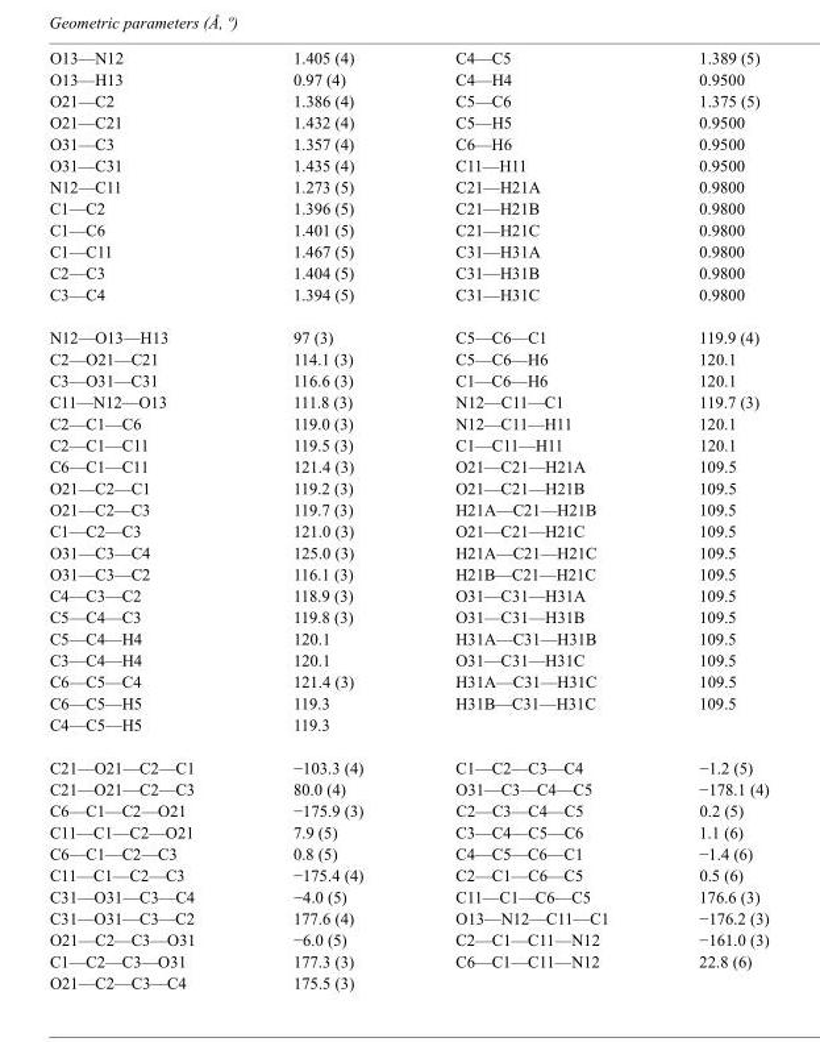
<table><tbody><tr><td>O13—N12</td><td>1.405 (4)</td><td>C4—C5</td><td>1.389 (5)</td></tr><tr><td>O13—H13</td><td>0.97 (4)</td><td>C4—H4</td><td>0.9500</td></tr><tr><td>O21—C2</td><td>1.386 (4)</td><td>C5—C6</td><td>1.375 (5)</td></tr><tr><td>O21—C21</td><td>1.432 (4)</td><td>C5—H5</td><td>0.9500</td></tr><tr><td>O31—C3</td><td>1.357 (4)</td><td>C6—H6</td><td>0.9500</td></tr><tr><td>O31—C31</td><td>1.435 (4)</td><td>C11—H11</td><td>0.9500</td></tr><tr><td>N12—C11</td><td>1.273 (5)</td><td>C21—H21A</td><td>0.9800</td></tr><tr><td>C1—C2</td><td>1.396 (5)</td><td>C21—H21B</td><td>0.9800</td></tr><tr><td>C1—C6</td><td>1.401 (5)</td><td>C21—H21C</td><td>0.9800</td></tr><tr><td>C1—C11</td><td>1.467 (5)</td><td>C31—H31A</td><td>0.9800</td></tr><tr><td>C2—C3</td><td>1.404 (5)</td><td>C31—H31B</td><td>0.9800</td></tr><tr><td>C3—C4</td><td>1.394 (5)</td><td>C31—H31C</td><td>0.9800</td></tr><tr><td>N12—O13—H13</td><td>97 (3)</td><td>C5—C6—C1</td><td>119.9 (4)</td></tr><tr><td>C2—O21—C21</td><td>114.1 (3)</td><td>C5—C6—H6</td><td>120.1</td></tr><tr><td>C3—O31—C31</td><td>116.6 (3)</td><td>C1—C6—H6</td><td>120.1</td></tr><tr><td>C11—N12—O13</td><td>111.8 (3)</td><td>N12—C11—C1</td><td>119.7 (3)</td></tr><tr><td>C2—C1—C6</td><td>119.0 (3)</td><td>N12—C11—H11</td><td>120.1</td></tr><tr><td>C2—C1—C11</td><td>119.5 (3)</td><td>C1—C11—H11</td><td>120.1</td></tr><tr><td>C6—C1—C11</td><td>121.4 (3)</td><td>O21—C21—H21A</td><td>109.5</td></tr><tr><td>O21—C2—C1</td><td>119.2 (3)</td><td>O21—C21—H21B</td><td>109.5</td></tr><tr><td>O21—C2—C3</td><td>119.7 (3)</td><td>H21A—C21—H21B</td><td>109.5</td></tr><tr><td>C1—C2—C3</td><td>121.0 (3)</td><td>O21—C21—H21C</td><td>109.5</td></tr><tr><td>O31—C3—C4</td><td>125.0 (3)</td><td>H21A—C21—H21C</td><td>109.5</td></tr><tr><td>O31—C3—C2</td><td>116.1 (3)</td><td>H21B—C21—H21C</td><td>109.5</td></tr><tr><td>C4—C3—C2</td><td>118.9 (3)</td><td>O31—C31—H31A</td><td>109.5</td></tr><tr><td>C5—C4—C3</td><td>119.8 (3)</td><td>O31—C31—H31B</td><td>109.5</td></tr><tr><td>C5—C4—H4</td><td>120.1</td><td>H31A—C31—H31B</td><td>109.5</td></tr><tr><td>C3—C4—H4</td><td>120.1</td><td>O31—C31—H31C</td><td>109.5</td></tr><tr><td>C6—C5—C4</td><td>121.4 (3)</td><td>H31A—C31—H31C</td><td>109.5</td></tr><tr><td>C6—C5—H5</td><td>119.3</td><td>H31B—C31—H31C</td><td>109.5</td></tr><tr><td>C4—C5—H5</td><td>119.3</td><td></td><td></td></tr><tr><td>C21—O21—C2—C1</td><td>−103.3 (4)</td><td>C1—C2—C3—C4</td><td>−1.2 (5)</td></tr><tr><td>C21—O21—C2—C3</td><td>80.0 (4)</td><td>O31—C3—C4—C5</td><td>−178.1 (4)</td></tr><tr><td>C6—C1—C2—O21</td><td>−175.9 (3)</td><td>C2—C3—C4—C5</td><td>0.2 (5)</td></tr><tr><td>C11—C1—C2—O21</td><td>7.9 (5)</td><td>C3—C4—C5—C6</td><td>1.1 (6)</td></tr><tr><td>C6—C1—C2—C3</td><td>0.8 (5)</td><td>C4—C5—C6—C1</td><td>−1.4 (6)</td></tr><tr><td>C11—C1—C2—C3</td><td>−175.4 (4)</td><td>C2—C1—C6—C5</td><td>0.5 (6)</td></tr><tr><td>C31—O31—C3—C4</td><td>−4.0 (5)</td><td>C11—C1—C6—C5</td><td>176.6 (3)</td></tr><tr><td>C31—O31—C3—C2</td><td>177.6 (4)</td><td>O13—N12—C11—C1</td><td>−176.2 (3)</td></tr><tr><td>O21—C2—C3—O31</td><td>−6.0 (5)</td><td>C2—C1—C11—N12</td><td>−161.0 (3)</td></tr><tr><td>C1—C2—C3—O31</td><td>177.3 (3)</td><td>C6—C1—C11—N12</td><td>22.8 (6)</td></tr><tr><td>O21—C2—C3—C4</td><td>175.5 (3)</td><td></td><td></td></tr></tbody></table>